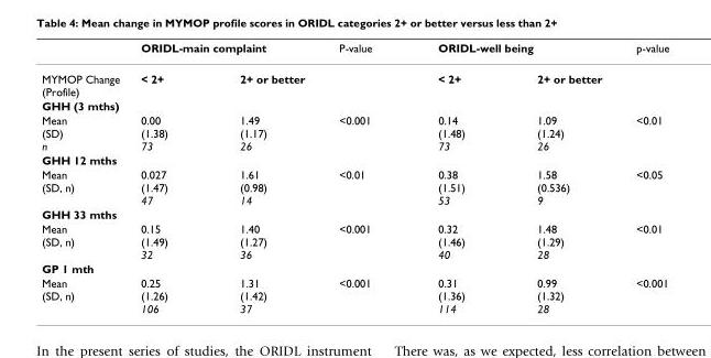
<table><thead><tr><td rowspan="2">MYMOP Change (Profile)</td><td colspan="2">ORIDL-main complaint</td><td rowspan="2">P-value</td><td colspan="2">ORIDL-well being</td><td rowspan="2">p-value</td></tr><tr><td>&lt; 2+</td><td>2+ or better</td><td>&lt; 2+</td><td>2+ or better</td></tr></thead><tbody><tr><td colspan="7">GHH (3 mths)</td></tr><tr><td>Mean (SD) n</td><td>0.00 (1.38) 73</td><td>1.49 (1.17) 26</td><td>&lt;0.001</td><td>0.14 (1.48) 73</td><td>1.09 (1.24) 26</td><td>&lt;0.01</td></tr><tr><td colspan="7">GHH 12 mths</td></tr><tr><td>Mean (SD, n)</td><td>0.027 (1.47) 47</td><td>1.61 (0.98) 14</td><td>&lt;0.01</td><td>0.38 (1.51) 53</td><td>1.58 (0.536) 9</td><td>&lt;0.05</td></tr><tr><td colspan="7">GHH 33 mths</td></tr><tr><td>Mean (SD, n)</td><td>0.15 (1.49) 32</td><td>1.40 (1.27) 36</td><td>&lt;0.001</td><td>0.32 (1.46) 40</td><td>1.48 (1.29) 28</td><td>&lt;0.01</td></tr><tr><td colspan="7">GP 1 mth</td></tr><tr><td>Mean (SD, n)</td><td>0.25 (1.26) 106</td><td>1.31 (1.42) 37</td><td>&lt;0.001</td><td>0.31 (1.36) 114</td><td>0.99 (1.32) 28</td><td>&lt;0.001</td></tr></tbody></table>